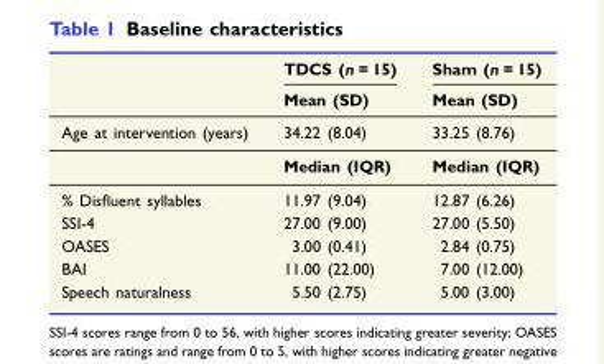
<table><thead><tr><td rowspan="2"></td><td rowspan="2">TDCS (n = 15) Mean (SD)</td><td rowspan="2">Sham (n = 15) Mean (SD)</td></tr><tr></tr></thead><tbody><tr><td rowspan="2">Age at intervention (years)</td><td>34.22 (8.04)</td><td>33.25 (8.76)</td></tr><tr><td>Median (IQR)</td><td>Median (IQR)</td></tr><tr><td>% Disfluent syllables</td><td>11.97 (9.04)</td><td>12.87 (6.26)</td></tr><tr><td>SSI-4</td><td>27.00 (9.00)</td><td>27.00 (5.50)</td></tr><tr><td>OASES</td><td>3.00 (0.41)</td><td>2.84 (0.75)</td></tr><tr><td>BAI</td><td>11.00 (22.00)</td><td>7.00 (12.00)</td></tr><tr><td>Speech naturalness</td><td>5.50 (2.75)</td><td>5.00 (3.00)</td></tr></tbody></table>